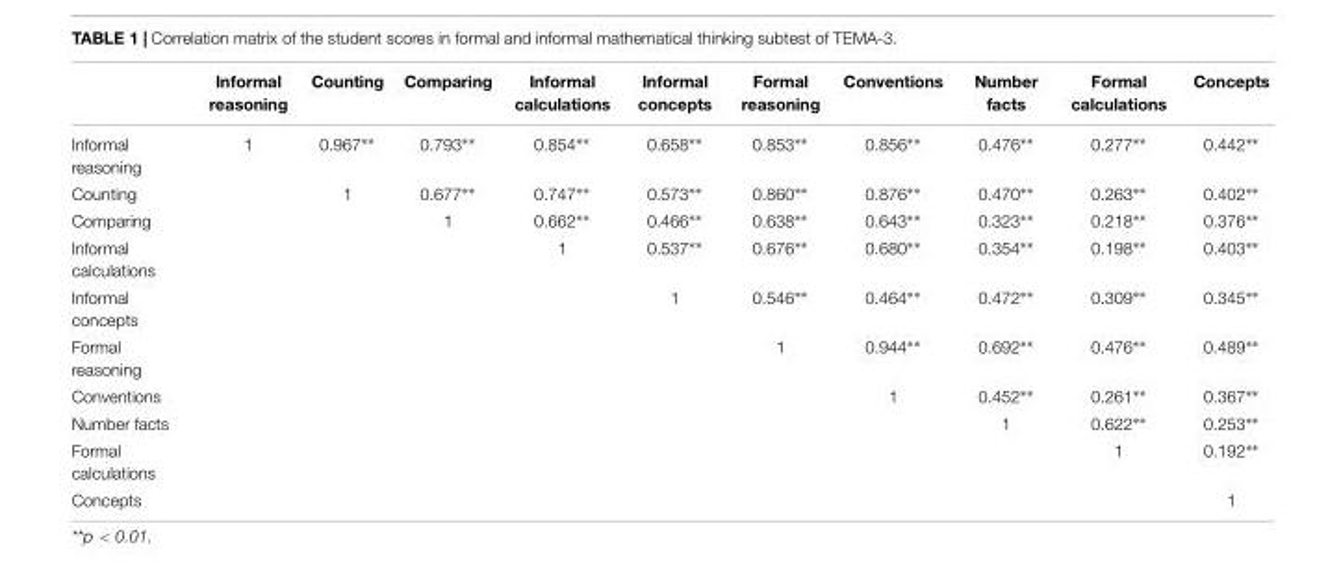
<table><thead><tr><td></td><td>Informal reasoning</td><td>Counting</td><td>Comparing</td><td>Informal calculations</td><td>Informal concepts</td><td>Formal reasoning</td><td>Conventions</td><td>Number facts</td><td>Formal calculations</td><td>Concepts</td></tr></thead><tbody><tr><td>Informal reasoning</td><td>1</td><td>0.967∗∗</td><td>0.793∗∗</td><td>0.854∗∗</td><td>0.658∗∗</td><td>0.853∗∗</td><td>0.856∗∗</td><td>0.476∗∗</td><td>0.277∗∗</td><td>0.442∗∗</td></tr><tr><td>Counting</td><td></td><td>1</td><td>0.677∗∗</td><td>0.747∗∗</td><td>0.573∗∗</td><td>0.860∗∗</td><td>0.876∗∗</td><td>0.470∗∗</td><td>0.263∗∗</td><td>0.402∗∗</td></tr><tr><td>Comparing</td><td></td><td></td><td>1</td><td>0.662∗∗</td><td>0.466∗∗</td><td>0.638∗∗</td><td>0.643∗∗</td><td>0.323∗∗</td><td>0.218∗∗</td><td>0.376∗∗</td></tr><tr><td>Informal calculations</td><td></td><td></td><td></td><td>1</td><td>0.537∗∗</td><td>0.676∗∗</td><td>0.680∗∗</td><td>0.354∗∗</td><td>0.198∗∗</td><td>0.403∗∗</td></tr><tr><td>Informal concepts</td><td></td><td></td><td></td><td></td><td>1</td><td>0.546∗∗</td><td>0.464∗∗</td><td>0.472∗∗</td><td>0.309∗∗</td><td>0.345∗∗</td></tr><tr><td>Formal reasoning</td><td></td><td></td><td></td><td></td><td></td><td>1</td><td>0.944∗∗</td><td>0.692∗∗</td><td>0.476∗∗</td><td>0.489∗∗</td></tr><tr><td>Conventions</td><td></td><td></td><td></td><td></td><td></td><td></td><td>1</td><td>0.452∗∗</td><td>0.261∗∗</td><td>0.367∗∗</td></tr><tr><td>Number facts</td><td></td><td></td><td></td><td></td><td></td><td></td><td></td><td>1</td><td>0.622∗∗</td><td>0.253∗∗</td></tr><tr><td>Formal calculations</td><td></td><td></td><td></td><td></td><td></td><td></td><td></td><td></td><td>1</td><td>0.192∗∗</td></tr><tr><td>Concepts</td><td></td><td></td><td></td><td></td><td></td><td></td><td></td><td></td><td></td><td>1</td></tr></tbody></table>